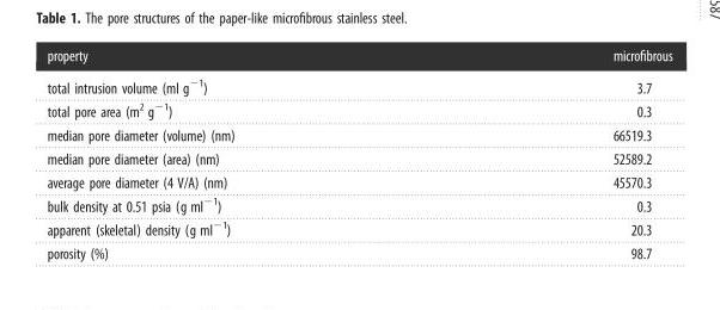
<table><thead><tr><td>property</td><td>microfibrous</td></tr></thead><tbody><tr><td>total intrusion volume (ml g<sup>−1</sup>)</td><td>3.7</td></tr><tr><td>total pore area (m<sup>2</sup> g<sup>−1</sup>)</td><td>0.3</td></tr><tr><td>median pore diameter (volume) (nm)</td><td>66519.3</td></tr><tr><td>median pore diameter (area) (nm)</td><td>52589.2</td></tr><tr><td>average pore diameter (4 V/A) (nm)</td><td>45570.3</td></tr><tr><td>bulk density at 0.51 psia (g ml<sup>−1</sup>)</td><td>0.3</td></tr><tr><td>apparent (skeletal) density (g ml<sup>−1</sup>)</td><td>20.3</td></tr><tr><td>porosity (%)</td><td>98.7</td></tr></tbody></table>